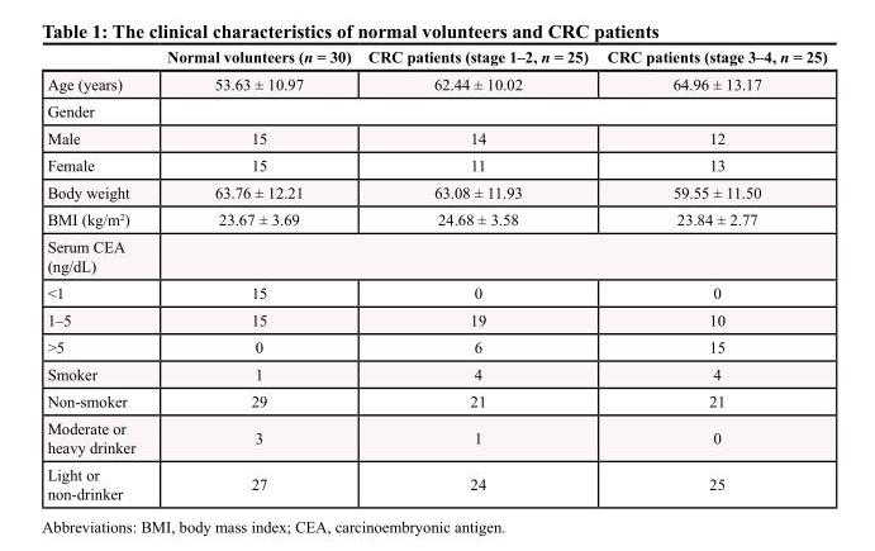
<table><thead><tr><td></td><td>Normal volunteers ( n = 30)</td><td>CRC patients (stage 1–2, n = 25)</td><td>CRC patients (stage 3–4, n = 25)</td></tr></thead><tbody><tr><td>Age (years)</td><td>53.63 ± 10.97</td><td>62.44 ± 10.02</td><td>64.96 ± 13.17</td></tr><tr><td colspan="4">Gender</td></tr><tr><td>Male</td><td>15</td><td>14</td><td>12</td></tr><tr><td>Female</td><td>15</td><td>11</td><td>13</td></tr><tr><td>Body weight</td><td>63.76 ± 12.21</td><td>63.08 ± 11.93</td><td>59.55 ± 11.50</td></tr><tr><td>BMI (kg/m <sup>2</sup> )</td><td>23.67 ± 3.69</td><td>24.68 ± 3.58</td><td>23.84 ± 2.77</td></tr><tr><td colspan="4">Serum CEA (ng/dL)</td></tr><tr><td>&lt;1</td><td>15</td><td>0</td><td>0</td></tr><tr><td>1–5</td><td>15</td><td>19</td><td>10</td></tr><tr><td>&gt;5</td><td>0</td><td>6</td><td>15</td></tr><tr><td>Smoker</td><td>1</td><td>4</td><td>4</td></tr><tr><td>Non-smoker</td><td>29</td><td>21</td><td>21</td></tr><tr><td>Moderate or heavy drinker</td><td>3</td><td>1</td><td>0</td></tr><tr><td>Light or non-drinker</td><td>27</td><td>24</td><td>25</td></tr></tbody></table>